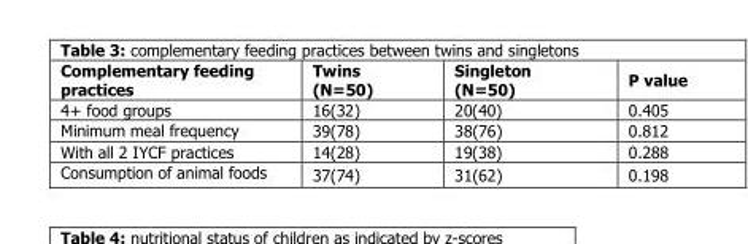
<table><thead><tr><td>Complementary feeding practices</td><td>Twins (N=50)</td><td>Singleton (N=50)</td><td>P value</td></tr></thead><tbody><tr><td>4+ food groups</td><td>16(32)</td><td>20(40)</td><td>0.405</td></tr><tr><td>Minimum meal frequency</td><td>39(78)</td><td>38(76)</td><td>0.812</td></tr><tr><td>With all 2 IYCF practices</td><td>14(28)</td><td>19(38)</td><td>0.288</td></tr><tr><td>Consumption of animal foods</td><td>37(74)</td><td>31(62)</td><td>0.198</td></tr></tbody></table>